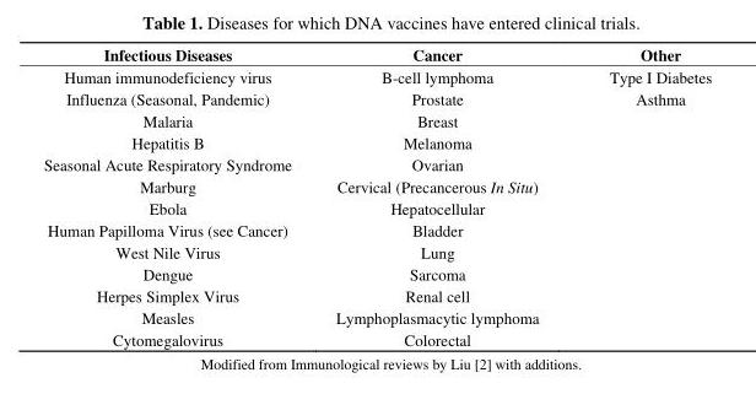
<table><thead><tr><td>Infectious Diseases</td><td>Cancer</td><td>Other</td></tr></thead><tbody><tr><td>Human immunodeficiency virus</td><td>B-cell lymphoma</td><td>Type I Diabetes</td></tr><tr><td>Influenza (Seasonal, Pandemic)</td><td>Prostate</td><td>Asthma</td></tr><tr><td>Malaria</td><td>Breast</td><td></td></tr><tr><td>Hepatitis B</td><td>Melanoma</td><td></td></tr><tr><td>Seasonal Acute Respiratory Syndrome</td><td>Ovarian</td><td></td></tr><tr><td>Marburg</td><td>Cervical (Precancerous In Situ)</td><td></td></tr><tr><td>Ebola</td><td>Hepatocellular</td><td></td></tr><tr><td>Human Papilloma Virus (see Cancer)</td><td>Bladder</td><td></td></tr><tr><td>West Nile Virus</td><td>Lung</td><td></td></tr><tr><td>Dengue</td><td>Sarcoma</td><td></td></tr><tr><td>Herpes Simplex Virus</td><td>Renal cell</td><td></td></tr><tr><td>Measles</td><td>Lymphoplasmacytic lymphoma</td><td></td></tr><tr><td>Cytomegalovirus</td><td>Colorectal</td><td></td></tr></tbody></table>